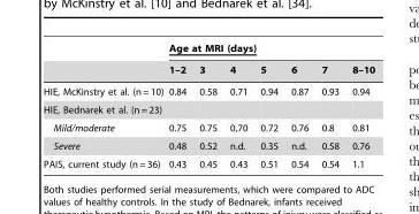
<table><thead><tr><td rowspan="2"></td><td colspan="7">Age at MRI (days)</td></tr><tr><td>1–2</td><td>3</td><td>4</td><td>5</td><td>6</td><td>7</td><td>8–10</td></tr></thead><tbody><tr><td>HIE, McKinstry et al. (n = 10)</td><td>0.84</td><td>0.58</td><td>0.71</td><td>0.94</td><td>0.87</td><td>0.93</td><td>0.94</td></tr><tr><td colspan="8">HIE, Bednarek et al. (n = 23)</td></tr><tr><td>Mild/moderate</td><td>0.75</td><td>0.75</td><td>0,70</td><td>0.72</td><td>0.76</td><td>0.8</td><td>0.81</td></tr><tr><td>Severe</td><td>0.48</td><td>0.52</td><td>n.d.</td><td>0.35</td><td>n.d.</td><td>0.58</td><td>0.76</td></tr><tr><td>PAIS, current study (n = 36)</td><td>0.43</td><td>0.45</td><td>0.43</td><td>0.51</td><td>0.54</td><td>0.54</td><td>1.1</td></tr></tbody></table>